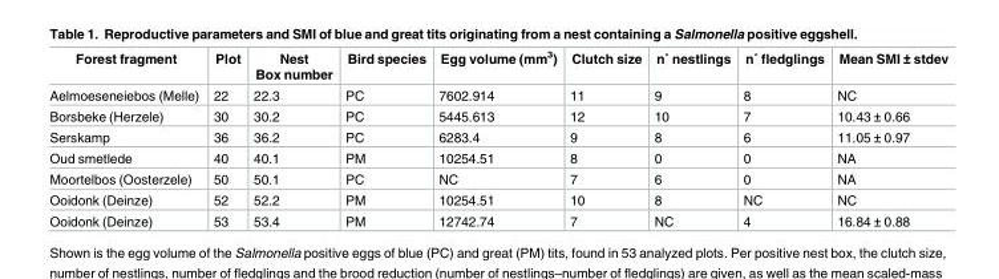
<table><thead><tr><td>Forest fragment</td><td>Plot</td><td>Nest Box number</td><td>Bird species</td><td>Egg volume (mm<sup>3</sup>)</td><td>Clutch size</td><td>n˚ nestlings</td><td>n˚ fledglings</td><td>Mean SMI ± stdev</td></tr></thead><tbody><tr><td>Aelmoeseneiebos (Melle)</td><td>22</td><td>22.3</td><td>PC</td><td>7602.914</td><td>11</td><td>9</td><td>8</td><td>NC</td></tr><tr><td>Borsbeke (Herzele)</td><td>30</td><td>30.2</td><td>PC</td><td>5445.613</td><td>12</td><td>10</td><td>7</td><td>10.43 ± 0.66</td></tr><tr><td>Serskamp</td><td>36</td><td>36.2</td><td>PC</td><td>6283.4</td><td>9</td><td>8</td><td>6</td><td>11.05 ± 0.97</td></tr><tr><td>Oud smetlede</td><td>40</td><td>40.1</td><td>PM</td><td>10254.51</td><td>8</td><td>0</td><td>0</td><td>NA</td></tr><tr><td>Moortelbos (Oosterzele)</td><td>50</td><td>50.1</td><td>PC</td><td>NC</td><td>7</td><td>6</td><td>0</td><td>NA</td></tr><tr><td>Ooidonk (Deinze)</td><td>52</td><td>52.2</td><td>PM</td><td>10254.51</td><td>10</td><td>8</td><td>NC</td><td>NC</td></tr><tr><td>Ooidonk (Deinze)</td><td>53</td><td>53.4</td><td>PM</td><td>12742.74</td><td>7</td><td>NC</td><td>4</td><td>16.84 ± 0.88</td></tr></tbody></table>